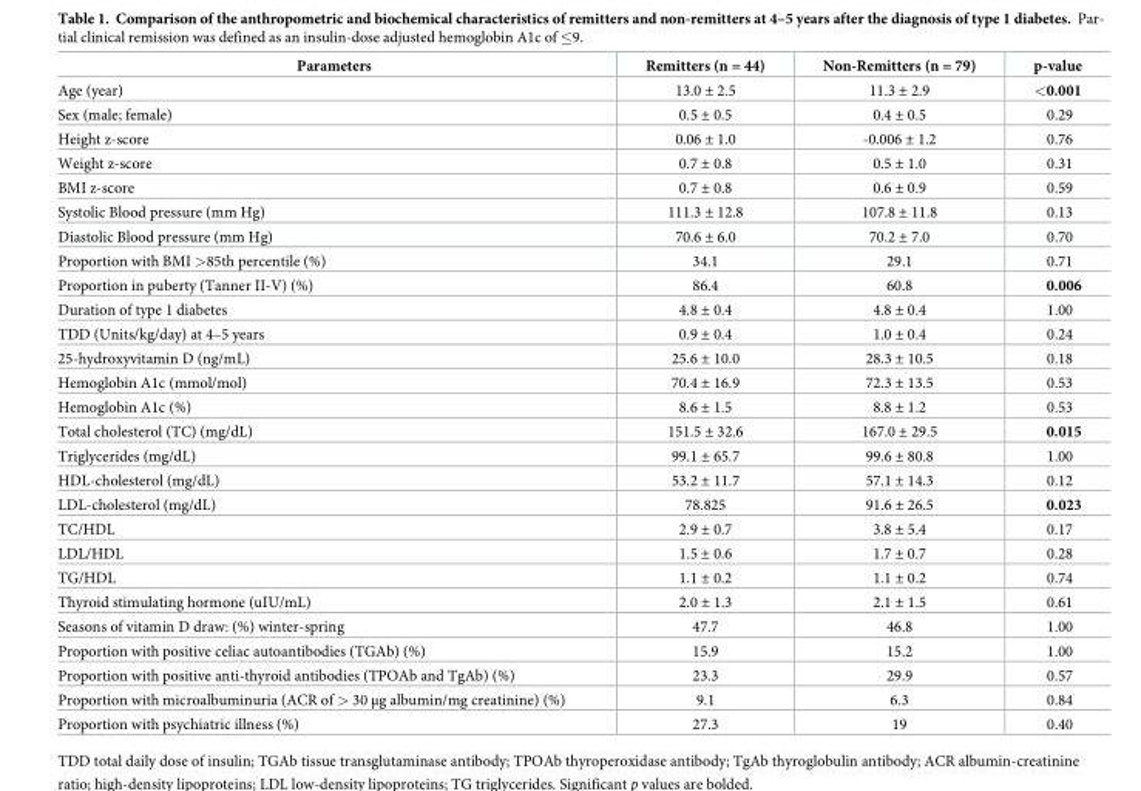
<table><thead><tr><td>Parameters</td><td>Remitters (n = 44)</td><td>Non-Remitters (n = 79)</td><td>p-value</td></tr></thead><tbody><tr><td>Age (year)</td><td>13.0 ± 2.5</td><td>11.3 ± 2.9</td><td>&lt;0.001</td></tr><tr><td>Sex (male; female)</td><td>0.5 ± 0.5</td><td>0.4 ± 0.5</td><td>0.29</td></tr><tr><td>Height z-score</td><td>0.06 ± 1.0</td><td>-0.006 ± 1.2</td><td>0.76</td></tr><tr><td>Weight z-score</td><td>0.7 ± 0.8</td><td>0.5 ± 1.0</td><td>0.31</td></tr><tr><td>BMI z-score</td><td>0.7 ± 0.8</td><td>0.6 ± 0.9</td><td>0.59</td></tr><tr><td>Systolic Blood pressure (mm Hg)</td><td>111.3 ± 12.8</td><td>107.8 ± 11.8</td><td>0.13</td></tr><tr><td>Diastolic Blood pressure (mm Hg)</td><td>70.6 ± 6.0</td><td>70.2 ± 7.0</td><td>0.70</td></tr><tr><td>Proportion with BMI &gt;85th percentile (%)</td><td>34.1</td><td>29.1</td><td>0.71</td></tr><tr><td>Proportion in puberty (Tanner II-V) (%)</td><td>86.4</td><td>60.8</td><td>0.006</td></tr><tr><td>Duration of type 1 diabetes</td><td>4.8 ± 0.4</td><td>4.8 ± 0.4</td><td>1.00</td></tr><tr><td>TDD (Units/kg/day) at 4–5 years</td><td>0.9 ± 0.4</td><td>1.0 ± 0.4</td><td>0.24</td></tr><tr><td>25-hydroxyvitamin D (ng/mL)</td><td>25.6 ± 10.0</td><td>28.3 ± 10.5</td><td>0.18</td></tr><tr><td>Hemoglobin A1c (mmol/mol)</td><td>70.4 ± 16.9</td><td>72.3 ± 13.5</td><td>0.53</td></tr><tr><td>Hemoglobin A1c (%)</td><td>8.6 ± 1.5</td><td>8.8 ± 1.2</td><td>0.53</td></tr><tr><td>Total cholesterol (TC) (mg/dL)</td><td>151.5 ± 32.6</td><td>167.0 ± 29.5</td><td>0.015</td></tr><tr><td>Triglycerides (mg/dL)</td><td>99.1 ± 65.7</td><td>99.6 ± 80.8</td><td>1.00</td></tr><tr><td>HDL-cholesterol (mg/dL)</td><td>53.2 ± 11.7</td><td>57.1 ± 14.3</td><td>0.12</td></tr><tr><td>LDL-cholesterol (mg/dL)</td><td>78.825</td><td>91.6 ± 26.5</td><td>0.023</td></tr><tr><td>TC/HDL</td><td>2.9 ± 0.7</td><td>3.8 ± 5.4</td><td>0.17</td></tr><tr><td>LDL/HDL</td><td>1.5 ± 0.6</td><td>1.7 ± 0.7</td><td>0.28</td></tr><tr><td>TG/HDL</td><td>1.1 ± 0.2</td><td>1.1 ± 0.2</td><td>0.74</td></tr><tr><td>Thyroid stimulating hormone (uIU/mL)</td><td>2.0 ± 1.3</td><td>2.1 ± 1.5</td><td>0.61</td></tr><tr><td>Seasons of vitamin D draw: (%) winter-spring</td><td>47.7</td><td>46.8</td><td>1.00</td></tr><tr><td>Proportion with positive celiac autoantibodies (TGAb) (%)</td><td>15.9</td><td>15.2</td><td>1.00</td></tr><tr><td>Proportion with positive anti-thyroid antibodies (TPOAb and TgAb) (%)</td><td>23.3</td><td>29.9</td><td>0.57</td></tr><tr><td>Proportion with microalbuminuria (ACR of &gt; 30 μg albumin/mg creatinine) (%)</td><td>9.1</td><td>6.3</td><td>0.84</td></tr><tr><td>Proportion with psychiatric illness (%)</td><td>27.3</td><td>19</td><td>0.40</td></tr></tbody></table>